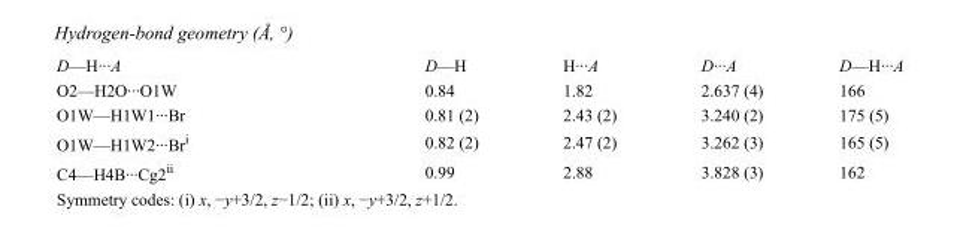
<table><tbody><tr><td>D—H···A</td><td>D—H</td><td>H···A</td><td>D···A</td><td>D—H···A</td></tr><tr><td>O2—H2O···O1W</td><td>0.84</td><td>1.82</td><td>2.637 (4)</td><td>166</td></tr><tr><td>O1W—H1W1···Br</td><td>0.81 (2)</td><td>2.43 (2)</td><td>3.240 (2)</td><td>175 (5)</td></tr><tr><td>O1W—H1W2···Br<sup>i</sup></td><td>0.82 (2)</td><td>2.47 (2)</td><td>3.262 (3)</td><td>165 (5)</td></tr><tr><td>C4—H4B···Cg2<sup>ii</sup></td><td>0.99</td><td>2.88</td><td>3.828 (3)</td><td>162</td></tr></tbody></table>